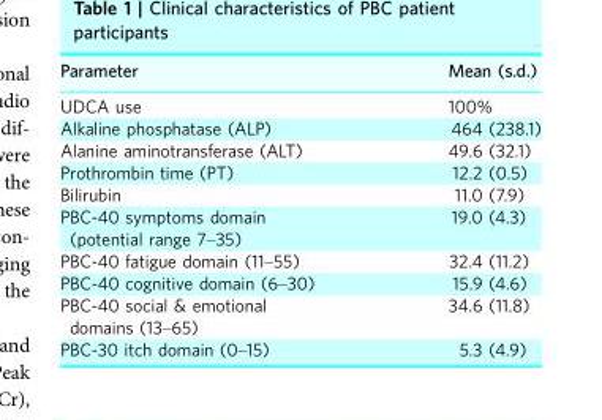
<table><thead><tr><td>Parameter</td><td>Mean (s.d.)</td></tr></thead><tbody><tr><td>UDCA use</td><td>100%</td></tr><tr><td>Alkaline phosphatase (ALP)</td><td>464 (238.1)</td></tr><tr><td>Alanine aminotransferase (ALT)</td><td>49.6 (32.1)</td></tr><tr><td>Prothrombin time (PT)</td><td>12.2 (0.5)</td></tr><tr><td>Bilirubin</td><td>11.0 (7.9)</td></tr><tr><td>PBC-40 symptoms domain (potential range 7–35)</td><td>19.0 (4.3)</td></tr><tr><td>PBC-40 fatigue domain (11–55)</td><td>32.4 (11.2)</td></tr><tr><td>PBC-40 cognitive domain (6–30)</td><td>15.9 (4.6)</td></tr><tr><td>PBC-40 social &amp; emotional domains (13–65)</td><td>34.6 (11.8)</td></tr><tr><td>PBC-30 itch domain (0–15)</td><td>5.3 (4.9)</td></tr></tbody></table>